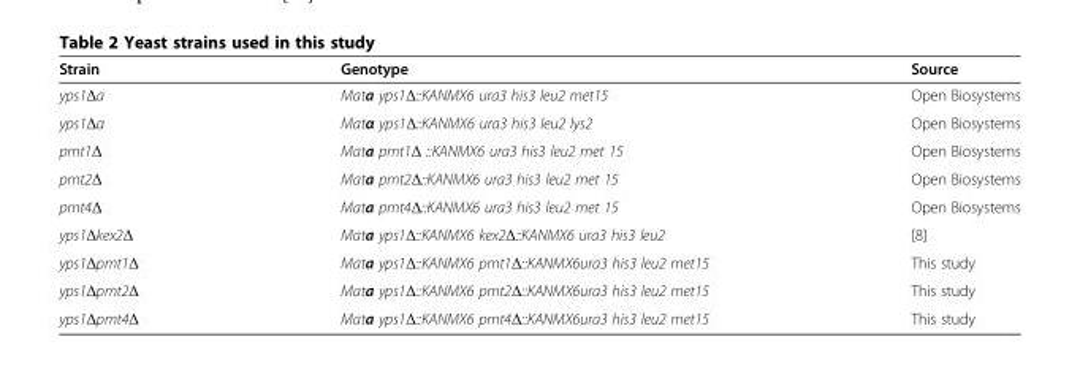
<table><thead><tr><td>Strain</td><td>Genotype</td><td>Source</td></tr></thead><tbody><tr><td>yps1Δa</td><td>Mata yps1Δ::KANMX6 ura3 his3 leu2 met15</td><td>Open Biosystems</td></tr><tr><td>yps1Δα</td><td>Matα yps1Δ::KANMX6 ura3 his3 leu2 lys2</td><td>Open Biosystems</td></tr><tr><td>pmt1Δ</td><td>Mata pmt1Δ ::KANMX6 ura3 his3 leu2 met 15</td><td>Open Biosystems</td></tr><tr><td>pmt2Δ</td><td>Mata pmt2Δ::KANMX6 ura3 his3 leu2 met 15</td><td>Open Biosystems</td></tr><tr><td>pmt4Δ</td><td>Mata pmt4Δ::KANMX6 ura3 his3 leu2 met 15</td><td>Open Biosystems</td></tr><tr><td>yps1Δkex2Δ</td><td>Mata yps1Δ::KANMX6 kex2Δ::KANMX6 ura3 his3 leu2</td><td>[8]</td></tr><tr><td>yps1Δpmt1Δ</td><td>Mata yps1Δ::KANMX6 pmt1Δ::KANMX6ura3 his3 leu2 met15</td><td>This study</td></tr><tr><td>yps1Δpmt2Δ</td><td>Mata yps1Δ::KANMX6 pmt2Δ::KANMX6ura3 his3 leu2 met15</td><td>This study</td></tr><tr><td>yps1Δpmt4Δ</td><td>Mata yps1Δ::KANMX6 pmt4Δ::KANMX6ura3 his3 leu2 met15</td><td>This study</td></tr></tbody></table>